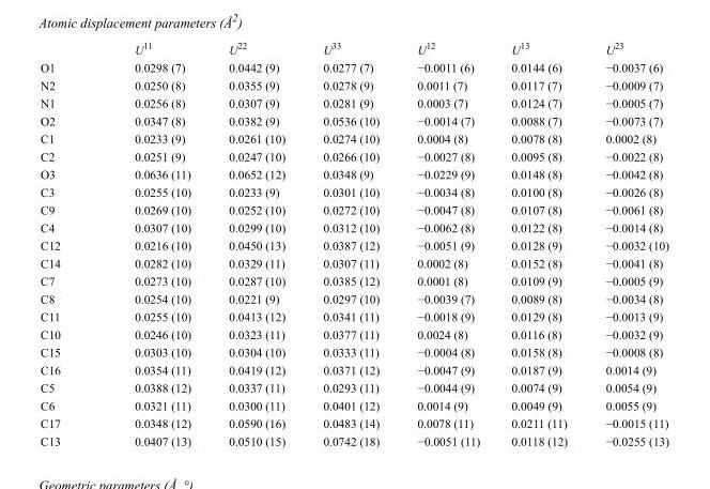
<table><thead><tr><td></td><td>U<sup>11</sup></td><td>U<sup>22</sup></td><td>U<sup>33</sup></td><td>U<sup>12</sup></td><td>U<sup>13</sup></td><td>U<sup>23</sup></td></tr></thead><tbody><tr><td>O1</td><td>0.0298 (7)</td><td>0.0442 (9)</td><td>0.0277 (7)</td><td>−0.0011 (6)</td><td>0.0144 (6)</td><td>−0.0037 (6)</td></tr><tr><td>N2</td><td>0.0250 (8)</td><td>0.0355 (9)</td><td>0.0278 (9)</td><td>0.0011 (7)</td><td>0.0117 (7)</td><td>−0.0009 (7)</td></tr><tr><td>N1</td><td>0.0256 (8)</td><td>0.0307 (9)</td><td>0.0281 (9)</td><td>0.0003 (7)</td><td>0.0124 (7)</td><td>−0.0005 (7)</td></tr><tr><td>O2</td><td>0.0347 (8)</td><td>0.0382 (9)</td><td>0.0536 (10)</td><td>−0.0014 (7)</td><td>0.0088 (7)</td><td>−0.0073 (7)</td></tr><tr><td>C1</td><td>0.0233 (9)</td><td>0.0261 (10)</td><td>0.0274 (10)</td><td>0.0004 (8)</td><td>0.0078 (8)</td><td>0.0002 (8)</td></tr><tr><td>C2</td><td>0.0251 (9)</td><td>0.0247 (10)</td><td>0.0266 (10)</td><td>−0.0027 (8)</td><td>0.0095 (8)</td><td>−0.0022 (8)</td></tr><tr><td>O3</td><td>0.0636 (11)</td><td>0.0652 (12)</td><td>0.0348 (9)</td><td>−0.0229 (9)</td><td>0.0148 (8)</td><td>−0.0042 (8)</td></tr><tr><td>C3</td><td>0.0255 (10)</td><td>0.0233 (9)</td><td>0.0301 (10)</td><td>−0.0034 (8)</td><td>0.0100 (8)</td><td>−0.0026 (8)</td></tr><tr><td>C9</td><td>0.0269 (10)</td><td>0.0252 (10)</td><td>0.0272 (10)</td><td>−0.0047 (8)</td><td>0.0107 (8)</td><td>−0.0061 (8)</td></tr><tr><td>C4</td><td>0.0307 (10)</td><td>0.0299 (10)</td><td>0.0312 (10)</td><td>−0.0062 (8)</td><td>0.0122 (8)</td><td>−0.0014 (8)</td></tr><tr><td>C12</td><td>0.0216 (10)</td><td>0.0450 (13)</td><td>0.0387 (12)</td><td>−0.0051 (9)</td><td>0.0128 (9)</td><td>−0.0032 (10)</td></tr><tr><td>C14</td><td>0.0282 (10)</td><td>0.0329 (11)</td><td>0.0307 (11)</td><td>0.0002 (8)</td><td>0.0152 (8)</td><td>−0.0041 (8)</td></tr><tr><td>C7</td><td>0.0273 (10)</td><td>0.0287 (10)</td><td>0.0385 (12)</td><td>0.0001 (8)</td><td>0.0109 (9)</td><td>−0.0005 (9)</td></tr><tr><td>C8</td><td>0.0254 (10)</td><td>0.0221 (9)</td><td>0.0297 (10)</td><td>−0.0039 (7)</td><td>0.0089 (8)</td><td>−0.0034 (8)</td></tr><tr><td>C11</td><td>0.0255 (10)</td><td>0.0413 (12)</td><td>0.0341 (11)</td><td>−0.0018 (9)</td><td>0.0129 (8)</td><td>−0.0013 (9)</td></tr><tr><td>C10</td><td>0.0246 (10)</td><td>0.0323 (11)</td><td>0.0377 (11)</td><td>0.0024 (8)</td><td>0.0116 (8)</td><td>−0.0032 (9)</td></tr><tr><td>C15</td><td>0.0303 (10)</td><td>0.0304 (10)</td><td>0.0333 (11)</td><td>−0.0004 (8)</td><td>0.0158 (8)</td><td>−0.0008 (8)</td></tr><tr><td>C16</td><td>0.0354 (11)</td><td>0.0419 (12)</td><td>0.0371 (12)</td><td>−0.0047 (9)</td><td>0.0187 (9)</td><td>0.0014 (9)</td></tr><tr><td>C5</td><td>0.0388 (12)</td><td>0.0337 (11)</td><td>0.0293 (11)</td><td>−0.0044 (9)</td><td>0.0074 (9)</td><td>0.0054 (9)</td></tr><tr><td>C6</td><td>0.0321 (11)</td><td>0.0300 (11)</td><td>0.0401 (12)</td><td>0.0014 (9)</td><td>0.0049 (9)</td><td>0.0055 (9)</td></tr><tr><td>C17</td><td>0.0348 (12)</td><td>0.0590 (16)</td><td>0.0483 (14)</td><td>0.0078 (11)</td><td>0.0211 (11)</td><td>−0.0015 (11)</td></tr><tr><td>C13</td><td>0.0407 (13)</td><td>0.0510 (15)</td><td>0.0742 (18)</td><td>−0.0051 (11)</td><td>0.0118 (12)</td><td>−0.0255 (13)</td></tr></tbody></table>